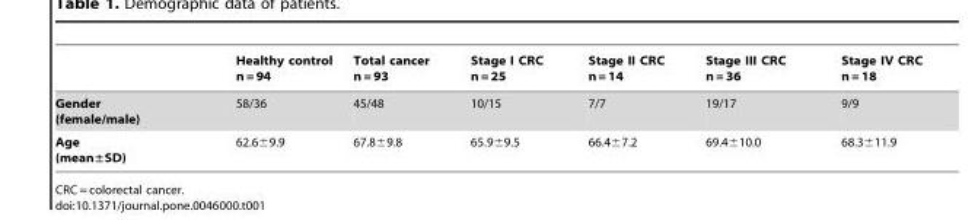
<table><thead><tr><td></td><td>Healthy control n = 94</td><td>Total cancer n = 93</td><td>Stage I CRC n = 25</td><td>Stage II CRC n = 14</td><td>Stage III CRC n = 36</td><td>Stage IV CRC n = 18</td></tr></thead><tbody><tr><td>Gender (female/male)</td><td>58/36</td><td>45/48</td><td>10/15</td><td>7/7</td><td>19/17</td><td>9/9</td></tr><tr><td>Age (mean±SD)</td><td>62.6±9.9</td><td>67.8±9.8</td><td>65.9±9.5</td><td>66.4±7.2</td><td>69.4±10.0</td><td>68.3±11.9</td></tr></tbody></table>